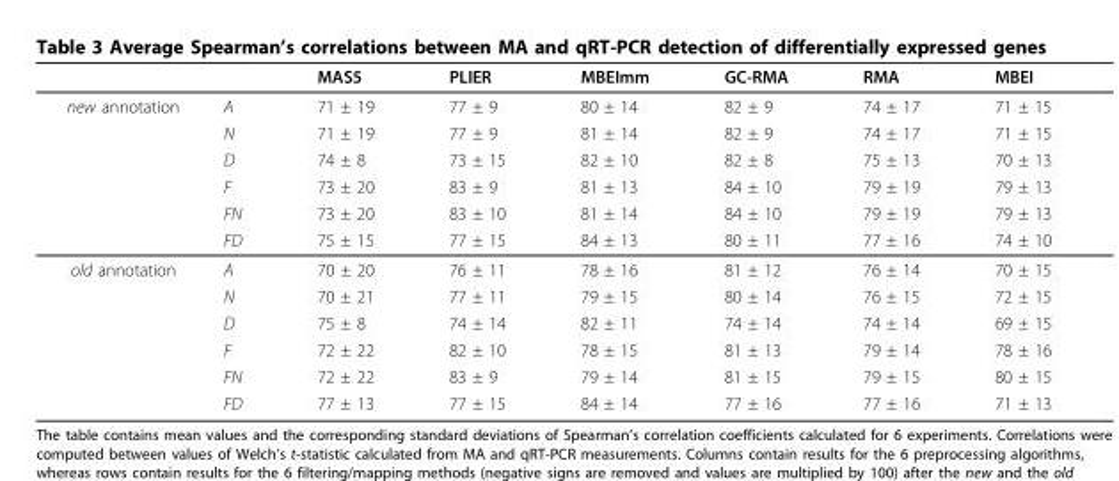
<table><thead><tr><td></td><td></td><td>MAS5</td><td>PLIER</td><td>MBEImm</td><td>GC-RMA</td><td>RMA</td><td>MBEI</td></tr></thead><tbody><tr><td rowspan="6">new annotation</td><td>A</td><td>71 ± 19</td><td>77 ± 9</td><td>80 ± 14</td><td>82 ± 9</td><td>74 ± 17</td><td>71 ± 15</td></tr><tr><td>N</td><td>71 ± 19</td><td>77 ± 9</td><td>81 ± 14</td><td>82 ± 9</td><td>74 ± 17</td><td>71 ± 15</td></tr><tr><td>D</td><td>74 ± 8</td><td>73 ± 15</td><td>82 ± 10</td><td>82 ± 8</td><td>75 ± 13</td><td>70 ± 13</td></tr><tr><td>F</td><td>73 ± 20</td><td>83 ± 9</td><td>81 ± 13</td><td>84 ± 10</td><td>79 ± 19</td><td>79 ± 13</td></tr><tr><td>FN</td><td>73 ± 20</td><td>83 ± 10</td><td>81 ± 14</td><td>84 ± 10</td><td>79 ± 19</td><td>79 ± 13</td></tr><tr><td>FD</td><td>75 ± 15</td><td>77 ± 15</td><td>84 ± 13</td><td>80 ± 11</td><td>77 ± 16</td><td>74 ± 10</td></tr><tr><td rowspan="6">old annotation</td><td>A</td><td>70 ± 20</td><td>76 ± 11</td><td>78 ± 16</td><td>81 ± 12</td><td>76 ± 14</td><td>70 ± 15</td></tr><tr><td>N</td><td>70 ± 21</td><td>77 ± 11</td><td>79 ± 15</td><td>80 ± 14</td><td>76 ± 15</td><td>72 ± 15</td></tr><tr><td>D</td><td>75 ± 8</td><td>74 ± 14</td><td>82 ± 11</td><td>74 ± 14</td><td>74 ± 14</td><td>69 ± 15</td></tr><tr><td>F</td><td>72 ± 22</td><td>82 ± 10</td><td>78 ± 15</td><td>81 ± 13</td><td>79 ± 14</td><td>78 ± 16</td></tr><tr><td>FN</td><td>72 ± 22</td><td>83 ± 9</td><td>79 ± 14</td><td>81 ± 15</td><td>79 ± 15</td><td>80 ± 15</td></tr><tr><td>FD</td><td>77 ± 13</td><td>77 ± 15</td><td>84 ± 14</td><td>77 ± 16</td><td>77 ± 16</td><td>71 ± 13</td></tr></tbody></table>